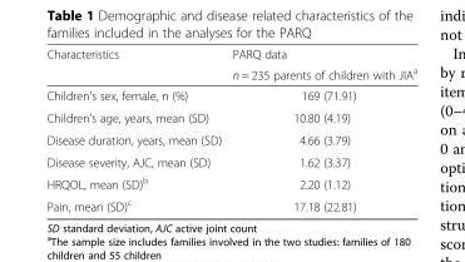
<table><thead><tr><td rowspan="2">Characteristics</td><td rowspan="2">PARQ data n = 235 parents of children with JIA<sup>a</sup></td></tr><tr></tr></thead><tbody><tr><td>Children’s sex, female, n (%)</td><td>169 (71.91)</td></tr><tr><td>Children’s age, years, mean (SD)</td><td>10.80 (4.19)</td></tr><tr><td>Disease duration, years, mean (SD)</td><td>4.66 (3.79)</td></tr><tr><td>Disease severity, AJC, mean (SD)</td><td>1.62 (3.37)</td></tr><tr><td>HRQOL, mean (SD)<sup>b</sup></td><td>2.20 (1.12)</td></tr><tr><td>Pain, mean (SD)<sup>c</sup></td><td>17.18 (22.81)</td></tr></tbody></table>